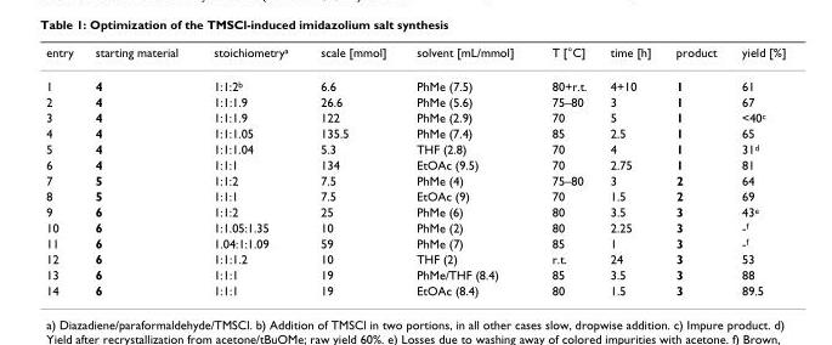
<table><thead><tr><td>entry</td><td>starting material</td><td>stoichiometry<sup>a</sup></td><td>scale [mmol]</td><td>solvent [mL/mmol]</td><td>T [°C]</td><td>time [h]</td><td>product</td><td>yield [%]</td></tr></thead><tbody><tr><td>1</td><td>4</td><td>1:1:2<sup>b</sup></td><td>6.6</td><td>PhMe (7.5)</td><td>80+r.t.</td><td>4+10</td><td>1</td><td>61</td></tr><tr><td>2</td><td>4</td><td>1:1:1.9</td><td>26.6</td><td>PhMe (5.6)</td><td>75–80</td><td>3</td><td>1</td><td>67</td></tr><tr><td>3</td><td>4</td><td>1:1:1.9</td><td>122</td><td>PhMe (2.9)</td><td>70</td><td>5</td><td>1</td><td>&lt;40<sup>c</sup></td></tr><tr><td>4</td><td>4</td><td>1:1:1.05</td><td>135.5</td><td>PhMe (7.4)</td><td>85</td><td>2.5</td><td>1</td><td>65</td></tr><tr><td>5</td><td>4</td><td>1:1:1.04</td><td>5.3</td><td>THF (2.8)</td><td>70</td><td>4</td><td>1</td><td>31<sup>d</sup></td></tr><tr><td>6</td><td>4</td><td>1:1:1</td><td>134</td><td>EtOAc (9.5)</td><td>70</td><td>2.75</td><td>1</td><td>81</td></tr><tr><td>7</td><td>5</td><td>1:1:2</td><td>7.5</td><td>PhMe (4)</td><td>75–80</td><td>3</td><td>2</td><td>64</td></tr><tr><td>8</td><td>5</td><td>1:1:1</td><td>7.5</td><td>EtOAc (9)</td><td>70</td><td>1.5</td><td>2</td><td>69</td></tr><tr><td>9</td><td>6</td><td>1:1:2</td><td>25</td><td>PhMe (6)</td><td>80</td><td>3.5</td><td>3</td><td>43<sup>e</sup></td></tr><tr><td>10</td><td>6</td><td>1:1.05:1.35</td><td>10</td><td>PhMe (2)</td><td>80</td><td>2.25</td><td>3</td><td>-<sup>f</sup></td></tr><tr><td>11</td><td>6</td><td>1.04:1:1.09</td><td>59</td><td>PhMe (7)</td><td>85</td><td>1</td><td>3</td><td>-<sup>f</sup></td></tr><tr><td>12</td><td>6</td><td>1:1:1.2</td><td>10</td><td>THF (2)</td><td>r.t.</td><td>24</td><td>3</td><td>53</td></tr><tr><td>13</td><td>6</td><td>1:1:1</td><td>19</td><td>PhMe/THF (8.4)</td><td>85</td><td>3.5</td><td>3</td><td>88</td></tr><tr><td>14</td><td>6</td><td>1:1:1</td><td>19</td><td>EtOAc (8.4)</td><td>80</td><td>1.5</td><td>3</td><td>89.5</td></tr></tbody></table>